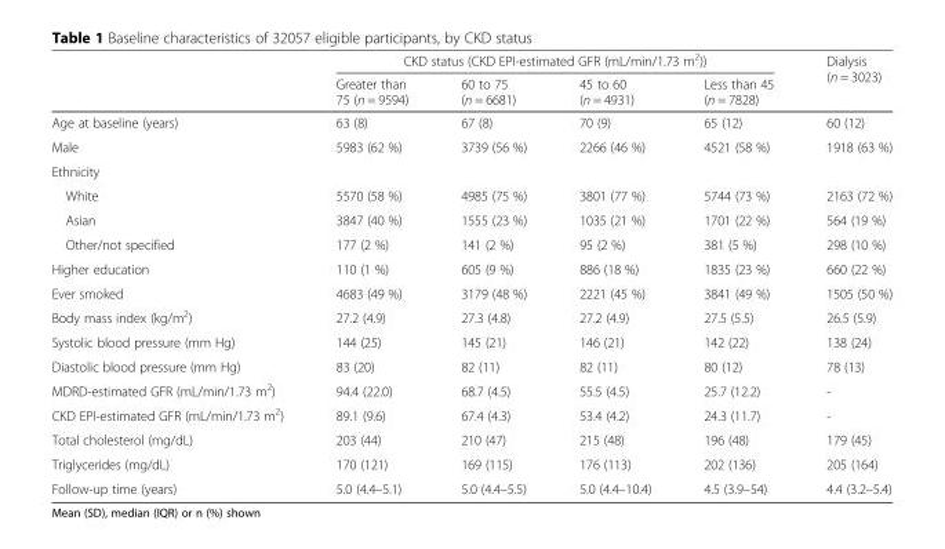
<table><thead><tr><td rowspan="2"></td><td colspan="4">CKD status (CKD EPI-estimated GFR (mL/min/1.73 m<sup>2</sup>))</td><td rowspan="2">Dialysis (n = 3023)</td></tr><tr><td>Greater than 75 (n = 9594)</td><td>60 to 75 (n = 6681)</td><td>45 to 60 (n = 4931)</td><td>Less than 45 (n = 7828)</td></tr></thead><tbody><tr><td>Age at baseline (years)</td><td>63 (8)</td><td>67 (8)</td><td>70 (9)</td><td>65 (12)</td><td>60 (12)</td></tr><tr><td>Male</td><td>5983 (62 %)</td><td>3739 (56 %)</td><td>2266 (46 %)</td><td>4521 (58 %)</td><td>1918 (63 %)</td></tr><tr><td colspan="6">Ethnicity</td></tr><tr><td>White</td><td>5570 (58 %)</td><td>4985 (75 %)</td><td>3801 (77 %)</td><td>5744 (73 %)</td><td>2163 (72 %)</td></tr><tr><td>Asian</td><td>3847 (40 %)</td><td>1555 (23 %)</td><td>1035 (21 %)</td><td>1701 (22 %)</td><td>564 (19 %)</td></tr><tr><td>Other/not specified</td><td>177 (2 %)</td><td>141 (2 %)</td><td>95 (2 %)</td><td>381 (5 %)</td><td>298 (10 %)</td></tr><tr><td>Higher education</td><td>110 (1 %)</td><td>605 (9 %)</td><td>886 (18 %)</td><td>1835 (23 %)</td><td>660 (22 %)</td></tr><tr><td>Ever smoked</td><td>4683 (49 %)</td><td>3179 (48 %)</td><td>2221 (45 %)</td><td>3841 (49 %)</td><td>1505 (50 %)</td></tr><tr><td>Body mass index (kg/m<sup>2</sup>)</td><td>27.2 (4.9)</td><td>27.3 (4.8)</td><td>27.2 (4.9)</td><td>27.5 (5.5)</td><td>26.5 (5.9)</td></tr><tr><td>Systolic blood pressure (mm Hg)</td><td>144 (25)</td><td>145 (21)</td><td>146 (21)</td><td>142 (22)</td><td>138 (24)</td></tr><tr><td>Diastolic blood pressure (mm Hg)</td><td>83 (20)</td><td>82 (11)</td><td>82 (11)</td><td>80 (12)</td><td>78 (13)</td></tr><tr><td>MDRD-estimated GFR (mL/min/1.73 m<sup>2</sup>)</td><td>94.4 (22.0)</td><td>68.7 (4.5)</td><td>55.5 (4.5)</td><td>25.7 (12.2)</td><td>-</td></tr><tr><td>CKD EPI-estimated GFR (mL/min/1.73 m<sup>2</sup>)</td><td>89.1 (9.6)</td><td>67.4 (4.3)</td><td>53.4 (4.2)</td><td>24.3 (11.7)</td><td>-</td></tr><tr><td>Total cholesterol (mg/dL)</td><td>203 (44)</td><td>210 (47)</td><td>215 (48)</td><td>196 (48)</td><td>179 (45)</td></tr><tr><td>Triglycerides (mg/dL)</td><td>170 (121)</td><td>169 (115)</td><td>176 (113)</td><td>202 (136)</td><td>205 (164)</td></tr><tr><td>Follow-up time (years)</td><td>5.0 (4.4–5.1)</td><td>5.0 (4.4–5.5)</td><td>5.0 (4.4–10.4)</td><td>4.5 (3.9–54)</td><td>4.4 (3.2–5.4)</td></tr></tbody></table>